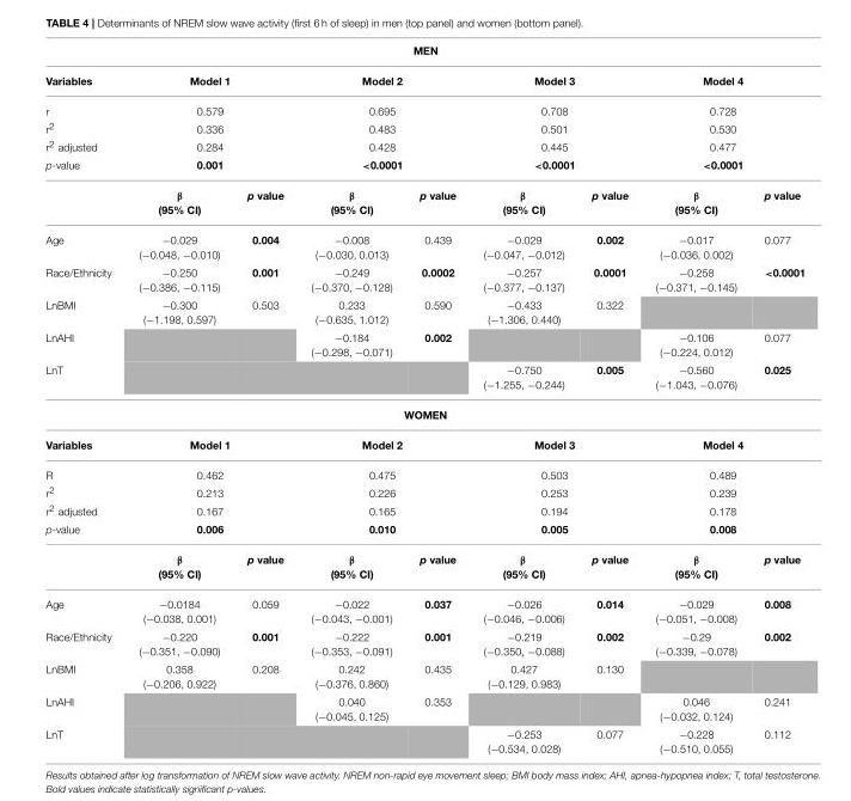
<table><thead><tr><td colspan="9">MEN</td></tr></thead><tbody><tr><td>Variables</td><td colspan="2">Model 1</td><td colspan="2">Model 2</td><td colspan="2">Model 3</td><td colspan="2">Model 4</td></tr><tr><td>r</td><td colspan="2">0.579</td><td colspan="2">0.695</td><td colspan="2">0.708</td><td colspan="2">0.728</td></tr><tr><td>r<sup>2</sup></td><td colspan="2">0.336</td><td colspan="2">0.483</td><td colspan="2">0.501</td><td colspan="2">0.530</td></tr><tr><td>r<sup>2</sup> adjusted</td><td colspan="2">0.284</td><td colspan="2">0.428</td><td colspan="2">0.445</td><td colspan="2">0.477</td></tr><tr><td rowspan="2">p-value</td><td colspan="2">0.001</td><td colspan="2">&lt;0.0001</td><td colspan="2">&lt;0.0001</td><td colspan="2">&lt;0.0001</td></tr><tr><td>β (95% CI)</td><td>p value</td><td>β (95% CI)</td><td>p value</td><td>β (95% CI)</td><td>p value</td><td>β (95% CI)</td><td>p value</td></tr><tr><td>Age</td><td>−0.029 (−0.048, −0.010)</td><td>0.004</td><td>−0.008 (−0.030, 0.013)</td><td>0.439</td><td>−0.029 (−0.047, −0.012)</td><td>0.002</td><td>−0.017 (−0.036, 0.002)</td><td>0.077</td></tr><tr><td>Race/Ethnicity</td><td>−0.250 (−0.386, −0.115)</td><td>0.001</td><td>−0.249 (−0.370, −0.128)</td><td>0.0002</td><td>−0.257 (−0.377, −0.137)</td><td>0.0001</td><td>−0.258 (−0.371, −0.145)</td><td>&lt;0.0001</td></tr><tr><td>LnBMI</td><td>−0.300 (−1.198, 0.597)</td><td>0.503</td><td>0.233 (−0.635, 1.012)</td><td>0.590</td><td>−0.433 (−1.306, 0.440)</td><td>0.322</td><td></td><td></td></tr><tr><td>LnAHI</td><td></td><td></td><td>−0.184 (−0.298, −0.071)</td><td>0.002</td><td></td><td></td><td>−0.106 (−0.224, 0.012)</td><td>0.077</td></tr><tr><td>LnT</td><td></td><td></td><td></td><td></td><td>−0.750 (−1.255, −0.244)</td><td>0.005</td><td>−0.560 (−1.043, −0.076)</td><td>0.025</td></tr><tr><td colspan="9">WOMEN</td></tr><tr><td>Variables</td><td colspan="2">Model 1</td><td colspan="2">Model 2</td><td colspan="2">Model 3</td><td colspan="2">Model 4</td></tr><tr><td>R</td><td colspan="2">0.462</td><td colspan="2">0.475</td><td colspan="2">0.503</td><td colspan="2">0.489</td></tr><tr><td>r<sup>2</sup></td><td colspan="2">0.213</td><td colspan="2">0.226</td><td colspan="2">0.253</td><td colspan="2">0.239</td></tr><tr><td>r<sup>2</sup> adjusted</td><td colspan="2">0.167</td><td colspan="2">0.165</td><td colspan="2">0.194</td><td colspan="2">0.178</td></tr><tr><td rowspan="2">p-value</td><td colspan="2">0.006</td><td colspan="2">0.010</td><td colspan="2">0.005</td><td colspan="2">0.008</td></tr><tr><td>β (95% CI)</td><td>p value</td><td>β (95% CI)</td><td>p value</td><td>β (95% CI)</td><td>p value</td><td>β (95% CI)</td><td>p value</td></tr><tr><td>Age</td><td>−0.0184 (−0.038, 0.001)</td><td>0.059</td><td>−0.022 (−0.043, −0.001)</td><td>0.037</td><td>−0.026 (−0.046, −0.006)</td><td>0.014</td><td>−0.029 (−0.051, −0.008)</td><td>0.008</td></tr><tr><td>Race/Ethnicity</td><td>−0.220 (−0.351, −0.090)</td><td>0.001</td><td>−0.222 (−0.353, −0.091)</td><td>0.001</td><td>−0.219 (−0.350, −0.088)</td><td>0.002</td><td>−0.29 (−0.339, −0.078)</td><td>0.002</td></tr><tr><td>LnBMI</td><td>0.358 (−0.206, 0.922)</td><td>0.208</td><td>0.242 (−0.376, 0.860)</td><td>0.435</td><td>0.427 (−0.129, 0.983)</td><td>0.130</td><td></td><td></td></tr><tr><td>LnAHI</td><td></td><td></td><td>0.040 (−0.045, 0.125)</td><td>0.353</td><td></td><td></td><td>0.046 (−0.032, 0.124)</td><td>0.241</td></tr><tr><td>LnT</td><td></td><td></td><td></td><td></td><td>−0.253 (−0.534, 0.028)</td><td>0.077</td><td>−0.228 (−0.510, 0.055)</td><td>0.112</td></tr></tbody></table>